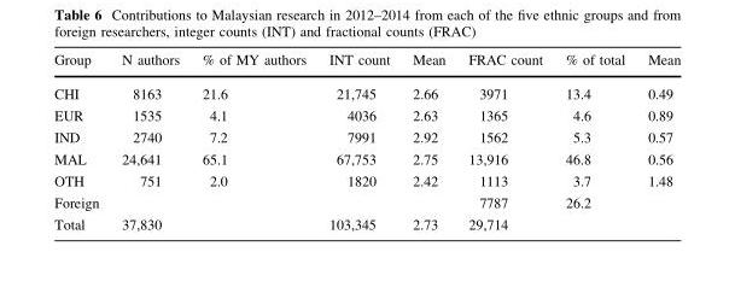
<table><thead><tr><td>Group</td><td>N authors</td><td>% of MY authors</td><td>INT count</td><td>Mean</td><td>FRAC count</td><td>% of total</td><td>Mean</td></tr></thead><tbody><tr><td>CHI</td><td>8163</td><td>21.6</td><td>21,745</td><td>2.66</td><td>3971</td><td>13.4</td><td>0.49</td></tr><tr><td>EUR</td><td>1535</td><td>4.1</td><td>4036</td><td>2.63</td><td>1365</td><td>4.6</td><td>0.89</td></tr><tr><td>IND</td><td>2740</td><td>7.2</td><td>7991</td><td>2.92</td><td>1562</td><td>5.3</td><td>0.57</td></tr><tr><td>MAL</td><td>24,641</td><td>65.1</td><td>67,753</td><td>2.75</td><td>13,916</td><td>46.8</td><td>0.56</td></tr><tr><td>OTH</td><td>751</td><td>2.0</td><td>1820</td><td>2.42</td><td>1113</td><td>3.7</td><td>1.48</td></tr><tr><td>Foreign</td><td></td><td></td><td></td><td></td><td>7787</td><td>26.2</td><td></td></tr><tr><td>Total</td><td>37,830</td><td></td><td>103,345</td><td>2.73</td><td>29,714</td><td></td><td></td></tr></tbody></table>